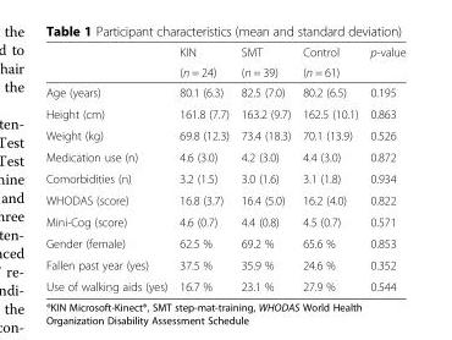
<table><thead><tr><td rowspan="2"></td><td rowspan="2">KIN (n = 24)</td><td rowspan="2">SMT (n = 39)</td><td rowspan="2">Control (n = 61)</td><td rowspan="2">p-value</td></tr><tr></tr></thead><tbody><tr><td>Age (years)</td><td>80.1 (6.3)</td><td>82.5 (7.0)</td><td>80.2 (6.5)</td><td>0.195</td></tr><tr><td>Height (cm)</td><td>161.8 (7.7)</td><td>163.2 (9.7)</td><td>162.5 (10.1)</td><td>0.863</td></tr><tr><td>Weight (kg)</td><td>69.8 (12.3)</td><td>73.4 (18.3)</td><td>70.1 (13.9)</td><td>0.526</td></tr><tr><td>Medication use (n)</td><td>4.6 (3.0)</td><td>4.2 (3.0)</td><td>4.4 (3.0)</td><td>0.872</td></tr><tr><td>Comorbidities (n)</td><td>3.2 (1.5)</td><td>3.0 (1.6)</td><td>3.1 (1.8)</td><td>0.934</td></tr><tr><td>WHODAS (score)</td><td>16.8 (3.7)</td><td>16.4 (5.0)</td><td>16.2 (4.0)</td><td>0.822</td></tr><tr><td>Mini-Cog (score)</td><td>4.6 (0.7)</td><td>4.4 (0.8)</td><td>4.5 (0.7)</td><td>0.571</td></tr><tr><td>Gender (female)</td><td>62.5 %</td><td>69.2 %</td><td>65.6 %</td><td>0.853</td></tr><tr><td>Fallen past year (yes)</td><td>37.5 %</td><td>35.9 %</td><td>24.6 %</td><td>0.352</td></tr><tr><td>Use of walking aids (yes)</td><td>16.7 %</td><td>23.1 %</td><td>27.9 %</td><td>0.544</td></tr></tbody></table>